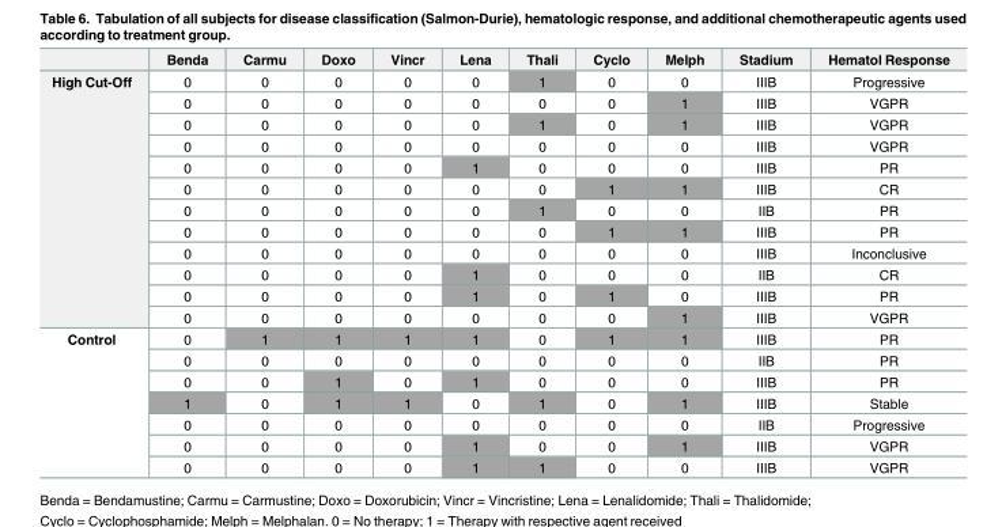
<table><thead><tr><td></td><td>Benda</td><td>Carmu</td><td>Doxo</td><td>Vincr</td><td>Lena</td><td>Thali</td><td>Cyclo</td><td>Melph</td><td>Stadium</td><td>Hematol Response</td></tr></thead><tbody><tr><td rowspan="12">High Cut-Off</td><td>0</td><td>0</td><td>0</td><td>0</td><td>0</td><td>1</td><td>0</td><td>0</td><td>IIIB</td><td>Progressive</td></tr><tr><td>0</td><td>0</td><td>0</td><td>0</td><td>0</td><td>0</td><td>0</td><td>1</td><td>IIIB</td><td>VGPR</td></tr><tr><td>0</td><td>0</td><td>0</td><td>0</td><td>0</td><td>1</td><td>0</td><td>1</td><td>IIIB</td><td>VGPR</td></tr><tr><td>0</td><td>0</td><td>0</td><td>0</td><td>0</td><td>0</td><td>0</td><td>0</td><td>IIIB</td><td>VGPR</td></tr><tr><td>0</td><td>0</td><td>0</td><td>0</td><td>1</td><td>0</td><td>0</td><td>0</td><td>IIIB</td><td>PR</td></tr><tr><td>0</td><td>0</td><td>0</td><td>0</td><td>0</td><td>0</td><td>1</td><td>1</td><td>IIIB</td><td>CR</td></tr><tr><td>0</td><td>0</td><td>0</td><td>0</td><td>0</td><td>1</td><td>0</td><td>0</td><td>IIB</td><td>PR</td></tr><tr><td>0</td><td>0</td><td>0</td><td>0</td><td>0</td><td>0</td><td>1</td><td>1</td><td>IIIB</td><td>PR</td></tr><tr><td>0</td><td>0</td><td>0</td><td>0</td><td>0</td><td>0</td><td>0</td><td>0</td><td>IIIB</td><td>Inconclusive</td></tr><tr><td>0</td><td>0</td><td>0</td><td>0</td><td>1</td><td>0</td><td>0</td><td>0</td><td>IIB</td><td>CR</td></tr><tr><td>0</td><td>0</td><td>0</td><td>0</td><td>1</td><td>0</td><td>1</td><td>0</td><td>IIIB</td><td>PR</td></tr><tr><td>0</td><td>0</td><td>0</td><td>0</td><td>0</td><td>0</td><td>0</td><td>1</td><td>IIIB</td><td>VGPR</td></tr><tr><td rowspan="7">Control</td><td>0</td><td>1</td><td>1</td><td>1</td><td>1</td><td>0</td><td>1</td><td>1</td><td>IIIB</td><td>PR</td></tr><tr><td>0</td><td>0</td><td>0</td><td>0</td><td>0</td><td>0</td><td>0</td><td>0</td><td>IIB</td><td>PR</td></tr><tr><td>0</td><td>0</td><td>1</td><td>0</td><td>1</td><td>0</td><td>0</td><td>0</td><td>IIIB</td><td>PR</td></tr><tr><td>1</td><td>0</td><td>1</td><td>1</td><td>0</td><td>1</td><td>0</td><td>1</td><td>IIIB</td><td>Stable</td></tr><tr><td>0</td><td>0</td><td>0</td><td>0</td><td>0</td><td>0</td><td>0</td><td>0</td><td>IIB</td><td>Progressive</td></tr><tr><td>0</td><td>0</td><td>0</td><td>0</td><td>1</td><td>0</td><td>0</td><td>1</td><td>IIIB</td><td>VGPR</td></tr><tr><td>0</td><td>0</td><td>0</td><td>0</td><td>1</td><td>1</td><td>0</td><td>0</td><td>IIIB</td><td>VGPR</td></tr></tbody></table>